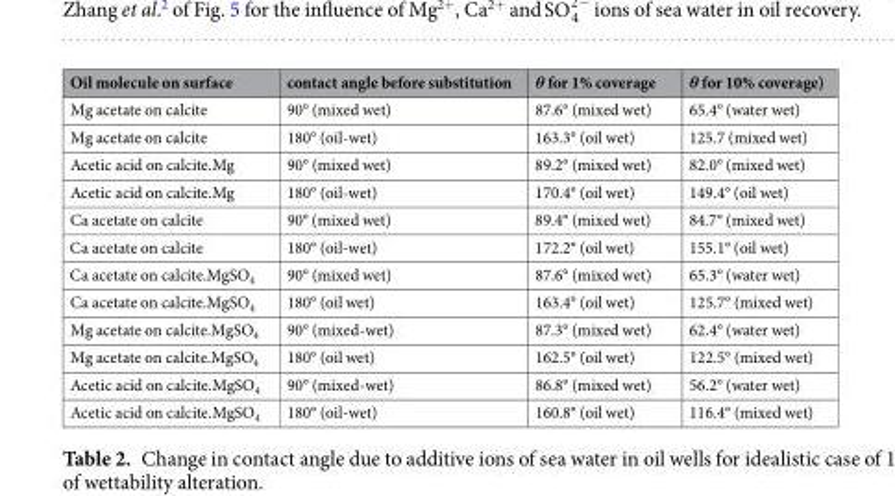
<table><thead><tr><td>Oil molecule on surface</td><td>contact angle before substitution</td><td>θ for 1% coverage</td><td>θ for 10% coverage)</td></tr></thead><tbody><tr><td>Mg acetate on calcite</td><td>90° (mixed wet)</td><td>87.6° (mixed wet)</td><td>65.4° (water wet)</td></tr><tr><td>Mg acetate on calcite</td><td>180° (oil-wet)</td><td>163.3° (oil wet)</td><td>125.7 (mixed wet)</td></tr><tr><td>Acetic acid on calcite.Mg</td><td>90° (mixed wet)</td><td>89.2° (mixed wet)</td><td>82.0° (mixed wet)</td></tr><tr><td>Acetic acid on calcite.Mg</td><td>180° (oil-wet)</td><td>170.4° (oil wet)</td><td>149.4° (oil wet)</td></tr><tr><td>Ca acetate on calcite</td><td>90° (mixed wet)</td><td>89.4° (mixed wet)</td><td>84.7° (mixed wet)</td></tr><tr><td>Ca acetate on calcite</td><td>180° (oil-wet)</td><td>172.2° (oil wet)</td><td>155.1° (oil wet)</td></tr><tr><td>Ca acetate on calcite.MgSO<sub>4</sub></td><td>90° (mixed wet)</td><td>87.6° (mixed wet)</td><td>65.3° (water wet)</td></tr><tr><td>Ca acetate on calcite.MgSO<sub>4</sub></td><td>180° (oil wet)</td><td>163.4° (oil wet)</td><td>125.7° (mixed wet)</td></tr><tr><td>Mg acetate on calcite.MgSO<sub>4</sub></td><td>90° (mixed-wet)</td><td>87.3° (mixed wet)</td><td>62.4° (water wet)</td></tr><tr><td>Mg acetate on calcite.MgSO<sub>4</sub></td><td>180° (oil wet)</td><td>162.5° (oil wet)</td><td>122.5° (mixed wet)</td></tr><tr><td>Acetic acid on calcite.MgSO<sub>4</sub></td><td>90° (mixed-wet)</td><td>86.8° (mixed wet)</td><td>56.2° (water wet)</td></tr><tr><td>Acetic acid on calcite.MgSO<sub>4</sub></td><td>180° (oil-wet)</td><td>160.8° (oil wet)</td><td>116.4° (mixed wet)</td></tr></tbody></table>